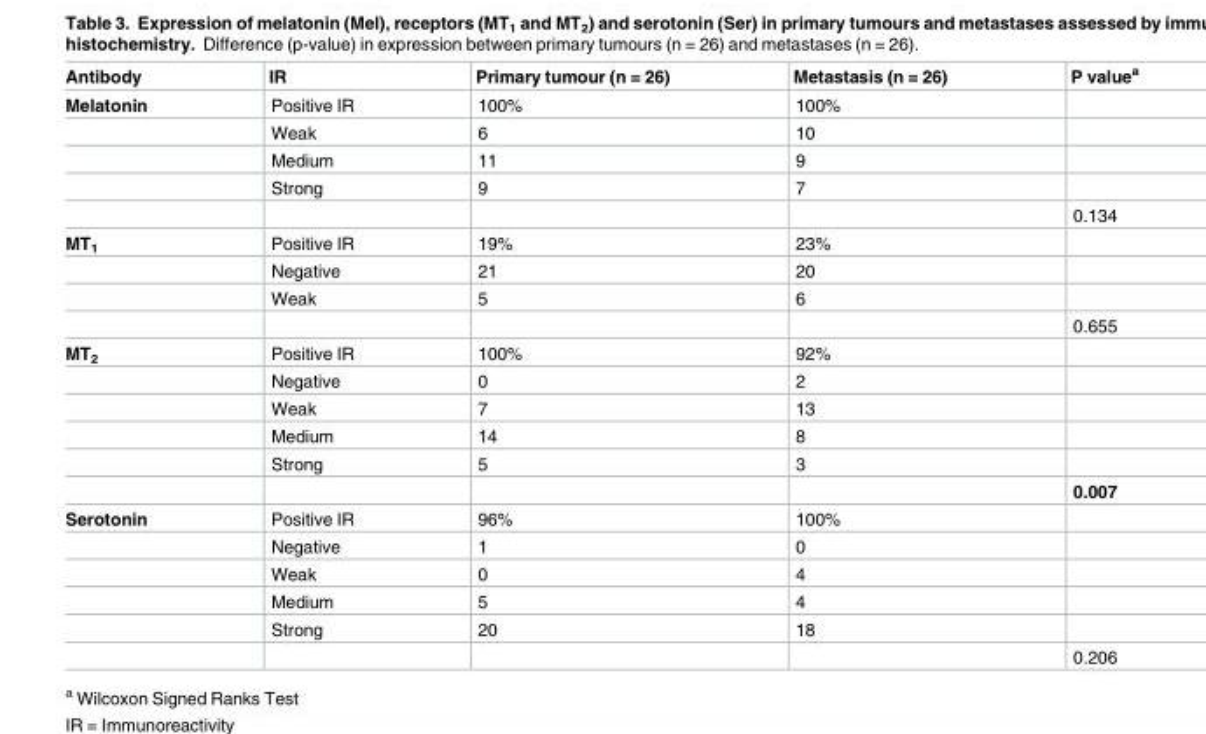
<table><thead><tr><td>Antibody</td><td>IR</td><td>Primary tumour (n = 26)</td><td>Metastasis (n = 26)</td><td>P value<sup>a</sup></td></tr></thead><tbody><tr><td rowspan="5">Melatonin</td><td>Positive IR</td><td>100%</td><td>100%</td><td></td></tr><tr><td>Weak</td><td>6</td><td>10</td><td></td></tr><tr><td>Medium</td><td>11</td><td>9</td><td></td></tr><tr><td>Strong</td><td>9</td><td>7</td><td></td></tr><tr><td></td><td></td><td></td><td>0.134</td></tr><tr><td rowspan="4">MT<sub>1</sub></td><td>Positive IR</td><td>19%</td><td>23%</td><td></td></tr><tr><td>Negative</td><td>21</td><td>20</td><td></td></tr><tr><td>Weak</td><td>5</td><td>6</td><td></td></tr><tr><td></td><td></td><td></td><td>0.655</td></tr><tr><td rowspan="6">MT<sub>2</sub></td><td>Positive IR</td><td>100%</td><td>92%</td><td></td></tr><tr><td>Negative</td><td>0</td><td>2</td><td></td></tr><tr><td>Weak</td><td>7</td><td>13</td><td></td></tr><tr><td>Medium</td><td>14</td><td>8</td><td></td></tr><tr><td>Strong</td><td>5</td><td>3</td><td></td></tr><tr><td></td><td></td><td></td><td>0.007</td></tr><tr><td rowspan="6">Serotonin</td><td>Positive IR</td><td>96%</td><td>100%</td><td></td></tr><tr><td>Negative</td><td>1</td><td>0</td><td></td></tr><tr><td>Weak</td><td>0</td><td>4</td><td></td></tr><tr><td>Medium</td><td>5</td><td>4</td><td></td></tr><tr><td>Strong</td><td>20</td><td>18</td><td></td></tr><tr><td></td><td></td><td></td><td>0.206</td></tr></tbody></table>